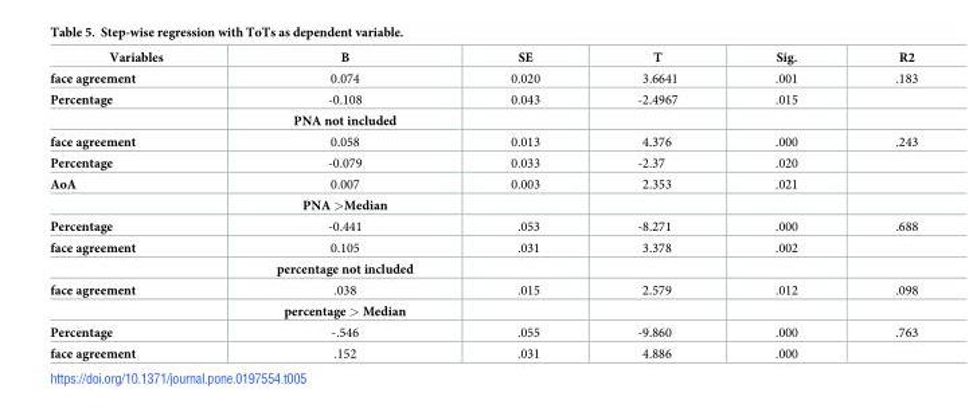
<table><thead><tr><td>Variables</td><td>B</td><td>SE</td><td>T</td><td>Sig.</td><td>R2</td></tr></thead><tbody><tr><td>face agreement</td><td>0.074</td><td>0.020</td><td>3.6641</td><td>.001</td><td>.183</td></tr><tr><td rowspan="2">Percentage</td><td>-0.108</td><td>0.043</td><td>-2.4967</td><td>.015</td><td></td></tr><tr><td>PNA not included</td><td></td><td></td><td></td><td></td></tr><tr><td>face agreement</td><td>0.058</td><td>0.013</td><td>4.376</td><td>.000</td><td>.243</td></tr><tr><td>Percentage</td><td>-0.079</td><td>0.033</td><td>-2.37</td><td>.020</td><td></td></tr><tr><td rowspan="2">AoA</td><td>0.007</td><td>0.003</td><td>2.353</td><td>.021</td><td></td></tr><tr><td>PNA &gt;Median</td><td></td><td></td><td></td><td></td></tr><tr><td>Percentage</td><td>-0.441</td><td>.053</td><td>-8.271</td><td>.000</td><td>.688</td></tr><tr><td rowspan="2">face agreement</td><td>0.105</td><td>.031</td><td>3.378</td><td>.002</td><td></td></tr><tr><td>percentage not included</td><td></td><td></td><td></td><td></td></tr><tr><td rowspan="2">face agreement</td><td>.038</td><td>.015</td><td>2.579</td><td>.012</td><td>.098</td></tr><tr><td>percentage &gt; Median</td><td></td><td></td><td></td><td></td></tr><tr><td>Percentage</td><td>-.546</td><td>.055</td><td>-9.860</td><td>.000</td><td>.763</td></tr><tr><td>face agreement</td><td>.152</td><td>.031</td><td>4.886</td><td>.000</td><td></td></tr></tbody></table>